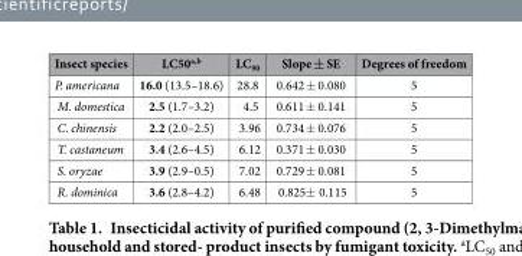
<table><thead><tr><td>Insect species</td><td>LC50a,<sup>b</sup></td><td>LC<sub>90</sub></td><td>Slope ± SE</td><td>Degrees of freedom</td></tr></thead><tbody><tr><td>P. americana</td><td>16.0 (13.5–18.6)</td><td>28.8</td><td>0.642 ± 0.080</td><td>5</td></tr><tr><td>M. domestica</td><td>2.5 (1.7–3.2)</td><td>4.5</td><td>0.611 ± 0.141</td><td>5</td></tr><tr><td>C. chinensis</td><td>2.2 (2.0–2.5)</td><td>3.96</td><td>0.734 ± 0.076</td><td>5</td></tr><tr><td>T. castaneum</td><td>3.4 (2.6–4.5)</td><td>6.12</td><td>0.371 ± 0.030</td><td>5</td></tr><tr><td>S. oryzae</td><td>3.9 (2.9–0.5)</td><td>7.02</td><td>0.729 ± 0.081</td><td>5</td></tr><tr><td>R. dominica</td><td>3.6 (2.8–4.2)</td><td>6.48</td><td>0.825± 0.115</td><td>5</td></tr></tbody></table>